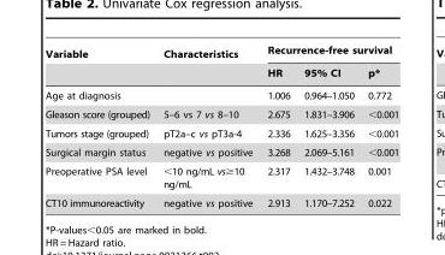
<table><thead><tr><td rowspan="2">Variable</td><td rowspan="2">Characteristics</td><td colspan="3">Recurrence-free survival</td></tr><tr><td>HR</td><td>95% CI</td><td>p*</td></tr></thead><tbody><tr><td>Age at diagnosis</td><td></td><td>1.006</td><td>0.964–1.050</td><td>0.772</td></tr><tr><td>Gleason score (grouped)</td><td>5–6 vs 7 vs 8–10</td><td>2.675</td><td>1.831–3.906</td><td>&lt;0.001</td></tr><tr><td>Tumors stage (grouped)</td><td>pT2a–c vs pT3a-4</td><td>2.336</td><td>1.625–3.356</td><td>&lt;0.001</td></tr><tr><td>Surgical margin status</td><td>negative vs positive</td><td>3.268</td><td>2.069–5.161</td><td>&lt;0.001</td></tr><tr><td>Preoperative PSA level</td><td>&lt;10 ng/mL vs≥10 ng/mL</td><td>2.317</td><td>1.432–3.748</td><td>0.001</td></tr><tr><td>CT10 immunoreactivity</td><td>negative vs positive</td><td>2.913</td><td>1.170–7.252</td><td>0.022</td></tr></tbody></table>